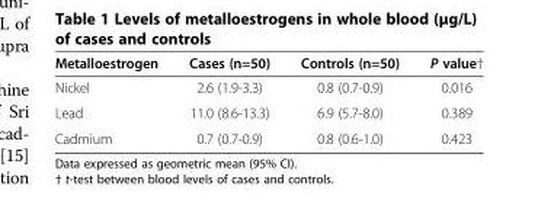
<table><thead><tr><td>Metalloestrogen</td><td>Cases (n=50)</td><td>Controls (n=50)</td><td>P value†</td></tr></thead><tbody><tr><td>Nickel</td><td>2.6 (1.9-3.3)</td><td>0.8 (0.7-0.9)</td><td>0.016</td></tr><tr><td>Lead</td><td>11.0 (8.6-13.3)</td><td>6.9 (5.7-8.0)</td><td>0.389</td></tr><tr><td>Cadmium</td><td>0.7 (0.7-0.9)</td><td>0.8 (0.6-1.0)</td><td>0.423</td></tr></tbody></table>